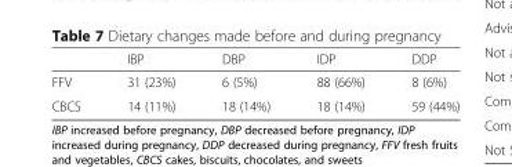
<table><thead><tr><td></td><td>IBP</td><td>DBP</td><td>IDP</td><td>DDP</td></tr></thead><tbody><tr><td>FFV</td><td>31 (23%)</td><td>6 (5%)</td><td>88 (66%)</td><td>8 (6%)</td></tr><tr><td>CBCS</td><td>14 (11%)</td><td>18 (14%)</td><td>18 (14%)</td><td>59 (44%)</td></tr></tbody></table>